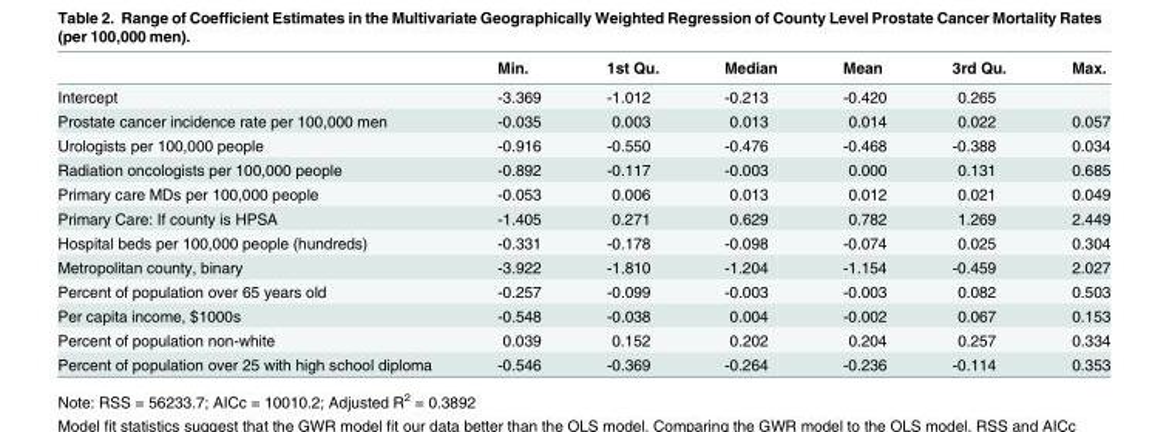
<table><thead><tr><td></td><td>Min.</td><td>1st Qu.</td><td>Median</td><td>Mean</td><td>3rd Qu.</td><td>Max.</td></tr></thead><tbody><tr><td>Intercept</td><td>-3.369</td><td>-1.012</td><td>-0.213</td><td>-0.420</td><td>0.265</td><td></td></tr><tr><td>Prostate cancer incidence rate per 100,000 men</td><td>-0.035</td><td>0.003</td><td>0.013</td><td>0.014</td><td>0.022</td><td>0.057</td></tr><tr><td>Urologists per 100,000 people</td><td>-0.916</td><td>-0.550</td><td>-0.476</td><td>-0.468</td><td>-0.388</td><td>0.034</td></tr><tr><td>Radiation oncologists per 100,000 people</td><td>-0.892</td><td>-0.117</td><td>-0.003</td><td>0.000</td><td>0.131</td><td>0.685</td></tr><tr><td>Primary care MDs per 100,000 people</td><td>-0.053</td><td>0.006</td><td>0.013</td><td>0.012</td><td>0.021</td><td>0.049</td></tr><tr><td>Primary Care: If county is HPSA</td><td>-1.405</td><td>0.271</td><td>0.629</td><td>0.782</td><td>1.269</td><td>2.449</td></tr><tr><td>Hospital beds per 100,000 people (hundreds)</td><td>-0.331</td><td>-0.178</td><td>-0.098</td><td>-0.074</td><td>0.025</td><td>0.304</td></tr><tr><td>Metropolitan county, binary</td><td>-3.922</td><td>-1.810</td><td>-1.204</td><td>-1.154</td><td>-0.459</td><td>2.027</td></tr><tr><td>Percent of population over 65 years old</td><td>-0.257</td><td>-0.099</td><td>-0.003</td><td>-0.003</td><td>0.082</td><td>0.503</td></tr><tr><td>Per capita income, $1000s</td><td>-0.548</td><td>-0.038</td><td>0.004</td><td>-0.002</td><td>0.067</td><td>0.153</td></tr><tr><td>Percent of population non-white</td><td>0.039</td><td>0.152</td><td>0.202</td><td>0.204</td><td>0.257</td><td>0.334</td></tr><tr><td>Percent of population over 25 with high school diploma</td><td>-0.546</td><td>-0.369</td><td>-0.264</td><td>-0.236</td><td>-0.114</td><td>0.353</td></tr></tbody></table>